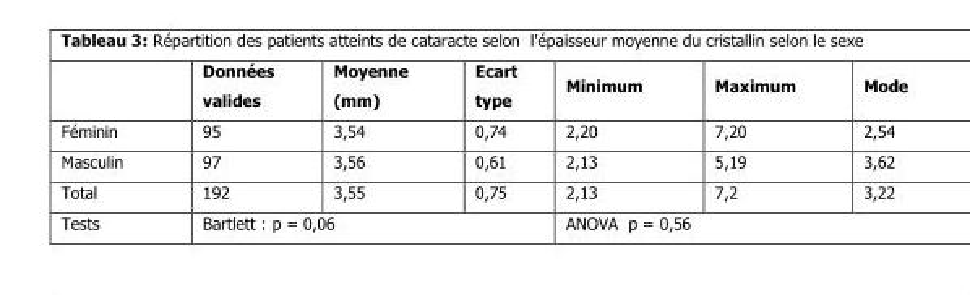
<table><thead><tr><td></td><td>Données valides</td><td>Moyenne (mm)</td><td>Ecart type</td><td>Minimum</td><td>Maximum</td><td>Mode</td></tr></thead><tbody><tr><td>Féminin</td><td>95</td><td>3,54</td><td>0,74</td><td>2,20</td><td>7,20</td><td>2,54</td></tr><tr><td>Masculin</td><td>97</td><td>3,56</td><td>0,61</td><td>2,13</td><td>5,19</td><td>3,62</td></tr><tr><td>Total</td><td>192</td><td>3,55</td><td>0,75</td><td>2,13</td><td>7,2</td><td>3,22</td></tr><tr><td>Tests</td><td colspan="3">Bartlett : p = 0,06</td><td colspan="3">ANOVA p = 0,56</td></tr></tbody></table>